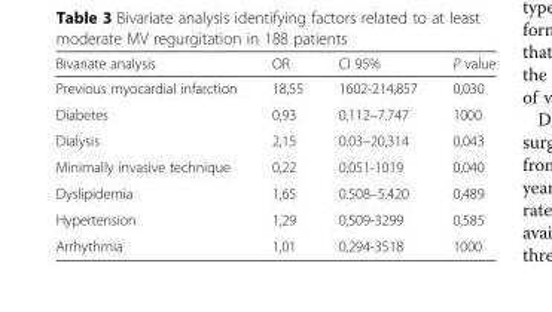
<table><thead><tr><td>Bivariate analysis</td><td>OR</td><td>CI 95%</td><td>P value</td></tr></thead><tbody><tr><td>Previous myocardial infarction</td><td>18,55</td><td>1602-214,857</td><td>0,030</td></tr><tr><td>Diabetes</td><td>0,93</td><td>0.112–7.747</td><td>1000</td></tr><tr><td>Dialysis</td><td>2,15</td><td>0.03–20,314</td><td>0,043</td></tr><tr><td>Minimally invasive technique</td><td>0,22</td><td>0,051-1019</td><td>0,040</td></tr><tr><td>Dyslipidemia</td><td>1,65</td><td>0.508–5.420</td><td>0,489</td></tr><tr><td>Hypertension</td><td>1,29</td><td>0,509-3299</td><td>0,585</td></tr><tr><td>Arrhythmia</td><td>1,01</td><td>0,294-3518</td><td>1000</td></tr></tbody></table>